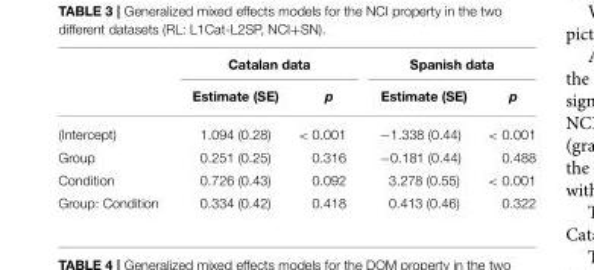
<table><thead><tr><td rowspan="2"></td><td colspan="2">Catalan data</td><td colspan="2">Spanish data</td></tr><tr><td>Estimate (SE)</td><td>p</td><td>Estimate (SE)</td><td>p</td></tr></thead><tbody><tr><td>(Intercept)</td><td>1.094 (0.28)</td><td>&lt; 0.001</td><td>−1.338 (0.44)</td><td>&lt; 0.001</td></tr><tr><td>Group</td><td>0.251 (0.25)</td><td>0.316</td><td>−0.181 (0.44)</td><td>0.488</td></tr><tr><td>Condition</td><td>0.726 (0.43)</td><td>0.092</td><td>3.278 (0.55)</td><td>&lt; 0.001</td></tr><tr><td>Group: Condition</td><td>0.334 (0.42)</td><td>0.418</td><td>0.413 (0.46)</td><td>0.322</td></tr></tbody></table>